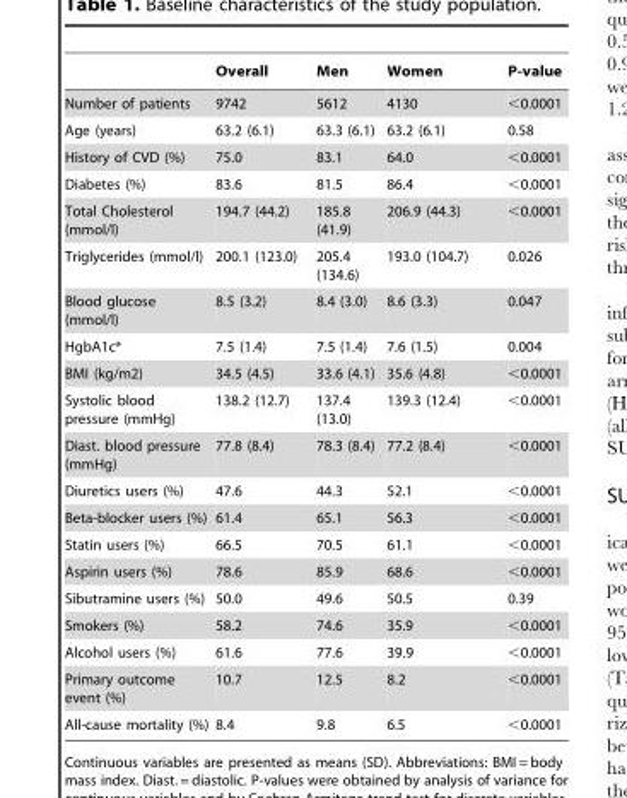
<table><thead><tr><td></td><td>Overall</td><td>Men</td><td>Women</td><td>P-value</td></tr></thead><tbody><tr><td>Number of patients</td><td>9742</td><td>5612</td><td>4130</td><td>&lt;0.0001</td></tr><tr><td>Age (years)</td><td>63.2 (6.1)</td><td>63.3 (6.1)</td><td>63.2 (6.1)</td><td>0.58</td></tr><tr><td>History of CVD (%)</td><td>75.0</td><td>83.1</td><td>64.0</td><td>&lt;0.0001</td></tr><tr><td>Diabetes (%)</td><td>83.6</td><td>81.5</td><td>86.4</td><td>&lt;0.0001</td></tr><tr><td>Total Cholesterol (mmol/l)</td><td>194.7 (44.2)</td><td>185.8 (41.9)</td><td>206.9 (44.3)</td><td>&lt;0.0001</td></tr><tr><td>Triglycerides (mmol/l)</td><td>200.1 (123.0)</td><td>205.4 (134.6)</td><td>193.0 (104.7)</td><td>0.026</td></tr><tr><td>Blood glucose (mmol/l)</td><td>8.5 (3.2)</td><td>8.4 (3.0)</td><td>8.6 (3.3)</td><td>0.047</td></tr><tr><td>HgbA1c*</td><td>7.5 (1.4)</td><td>7.5 (1.4)</td><td>7.6 (1.5)</td><td>0.004</td></tr><tr><td>BMI (kg/m2)</td><td>34.5 (4.5)</td><td>33.6 (4.1)</td><td>35.6 (4.8)</td><td>&lt;0.0001</td></tr><tr><td>Systolic blood pressure (mmHg)</td><td>138.2 (12.7)</td><td>137.4 (13.0)</td><td>139.3 (12.4)</td><td>&lt;0.0001</td></tr><tr><td>Diast. blood pressure (mmHg)</td><td>77.8 (8.4)</td><td>78.3 (8.4)</td><td>77.2 (8.4)</td><td>&lt;0.0001</td></tr><tr><td>Diuretics users (%)</td><td>47.6</td><td>44.3</td><td>52.1</td><td>&lt;0.0001</td></tr><tr><td>Beta-blocker users (%)</td><td>61.4</td><td>65.1</td><td>56.3</td><td>&lt;0.0001</td></tr><tr><td>Statin users (%)</td><td>66.5</td><td>70.5</td><td>61.1</td><td>&lt;0.0001</td></tr><tr><td>Aspirin users (%)</td><td>78.6</td><td>85.9</td><td>68.6</td><td>&lt;0.0001</td></tr><tr><td>Sibutramine users (%)</td><td>50.0</td><td>49.6</td><td>50.5</td><td>0.39</td></tr><tr><td>Smokers (%)</td><td>58.2</td><td>74.6</td><td>35.9</td><td>&lt;0.0001</td></tr><tr><td>Alcohol users (%)</td><td>61.6</td><td>77.6</td><td>39.9</td><td>&lt;0.0001</td></tr><tr><td>Primary outcome event (%)</td><td>10.7</td><td>12.5</td><td>8.2</td><td>&lt;0.0001</td></tr><tr><td>All-cause mortality (%)</td><td>8.4</td><td>9.8</td><td>6.5</td><td>&lt;0.0001</td></tr></tbody></table>